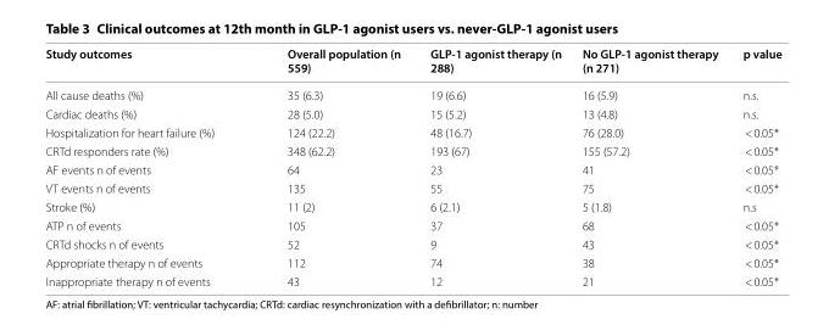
<table><thead><tr><td>Study outcomes</td><td>Overall population (n 559)</td><td>GLP‑1 agonist therapy (n 288)</td><td>No GLP‑1 agonist therapy (n 271)</td><td>p value</td></tr></thead><tbody><tr><td>All cause deaths (%)</td><td>35 (6.3)</td><td>19 (6.6)</td><td>16 (5.9)</td><td>n.s.</td></tr><tr><td>Cardiac deaths (%)</td><td>28 (5.0)</td><td>15 (5.2)</td><td>13 (4.8)</td><td>n.s.</td></tr><tr><td>Hospitalization for heart failure (%)</td><td>124 (22.2)</td><td>48 (16.7)</td><td>76 (28.0)</td><td>&lt; 0.05*</td></tr><tr><td>CRTd responders rate (%)</td><td>348 (62.2)</td><td>193 (67)</td><td>155 (57.2)</td><td>&lt; 0.05*</td></tr><tr><td>AF events n of events</td><td>64</td><td>23</td><td>41</td><td>&lt; 0.05*</td></tr><tr><td>VT events n of events</td><td>135</td><td>55</td><td>75</td><td>&lt; 0.05*</td></tr><tr><td>Stroke (%)</td><td>11 (2)</td><td>6 (2.1)</td><td>5 (1.8)</td><td>n.s</td></tr><tr><td>ATP n of events</td><td>105</td><td>37</td><td>68</td><td>&lt; 0.05*</td></tr><tr><td>CRTd shocks n of events</td><td>52</td><td>9</td><td>43</td><td>&lt; 0.05*</td></tr><tr><td>Appropriate therapy n of events</td><td>112</td><td>74</td><td>38</td><td>&lt; 0.05*</td></tr><tr><td>Inappropriate therapy n of events</td><td>43</td><td>12</td><td>21</td><td>&lt; 0.05*</td></tr></tbody></table>